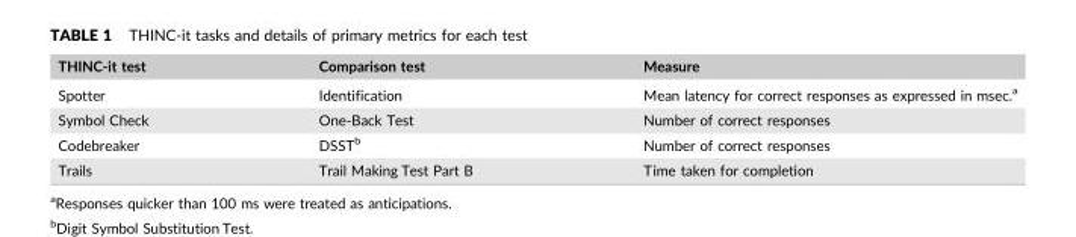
<table><thead><tr><td>THINC‐it test</td><td>Comparison test</td><td>Measure</td></tr></thead><tbody><tr><td>Spotter</td><td>Identification</td><td>Mean latency for correct responses as expressed in msec.<sup>a</sup></td></tr><tr><td>Symbol Check</td><td>One‐Back Test</td><td>Number of correct responses</td></tr><tr><td>Codebreaker</td><td>DSST<sup>b</sup></td><td>Number of correct responses</td></tr><tr><td>Trails</td><td>Trail Making Test Part B</td><td>Time taken for completion</td></tr></tbody></table>